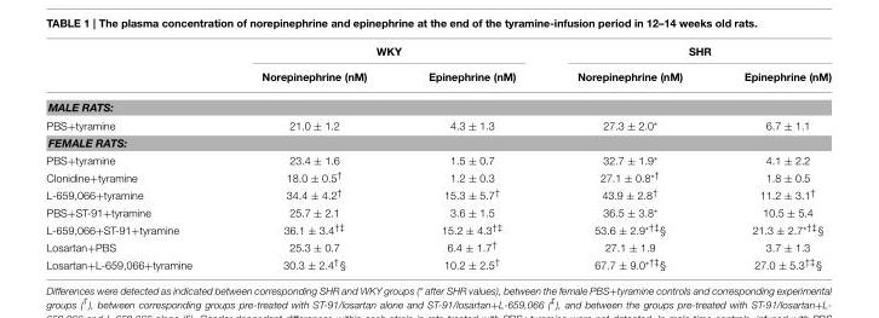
<table><thead><tr><td rowspan="2"></td><td colspan="2">WKY</td><td colspan="2">SHR</td></tr><tr><td>Norepinephrine (nM)</td><td>Epinephrine (nM)</td><td>Norepinephrine (nM)</td><td>Epinephrine (nM)</td></tr></thead><tbody><tr><td colspan="5">MALE RATS:</td></tr><tr><td>PBS+tyramine</td><td>21.0 ± 1.2</td><td>4.3 ± 1.3</td><td>27.3 ± 2.0*</td><td>6.7 ± 1.1</td></tr><tr><td colspan="5">FEMALE RATS:</td></tr><tr><td>PBS+tyramine</td><td>23.4 ± 1.6</td><td>1.5 ± 0.7</td><td>32.7 ± 1.9*</td><td>4.1 ± 2.2</td></tr><tr><td>Clonidine+tyramine</td><td>18.0 ± 0.5<sup>†</sup></td><td>1.2 ± 0.3</td><td>27.1 ± 0.8<sup>*†</sup></td><td>1.8 ± 0.5</td></tr><tr><td>L-659,066+tyramine</td><td>34.4 ± 4.2<sup>†</sup></td><td>15.3 ± 5.7<sup>†</sup></td><td>43.9 ± 2.8<sup>†</sup></td><td>11.2 ± 3.1<sup>†</sup></td></tr><tr><td>PBS+ST-91+tyramine</td><td>25.7 ± 2.1</td><td>3.6 ± 1.5</td><td>36.5 ± 3.8*</td><td>10.5 ± 5.4</td></tr><tr><td>L-659,066+ST-91+tyramine</td><td>36.1 ± 3.4<sup>†‡</sup></td><td>15.2 ± 4.3<sup>†‡</sup></td><td>53.6 ± 2.9<sup>*†‡</sup>§</td><td>21.3 ± 2.7<sup>*†‡</sup>§</td></tr><tr><td>Losartan+PBS</td><td>25.3 ± 0.7</td><td>6.4 ± 1.7<sup>†</sup></td><td>27.1 ± 1.9</td><td>3.7 ± 1.3</td></tr><tr><td>Losartan+L-659,066+tyramine</td><td>30.3 ± 2.4<sup>†</sup>§</td><td>10.2 ± 2.5<sup>†</sup></td><td>67.7 ± 9.0<sup>*†‡</sup>§</td><td>27.0 ± 5.3<sup>†‡</sup>§</td></tr></tbody></table>